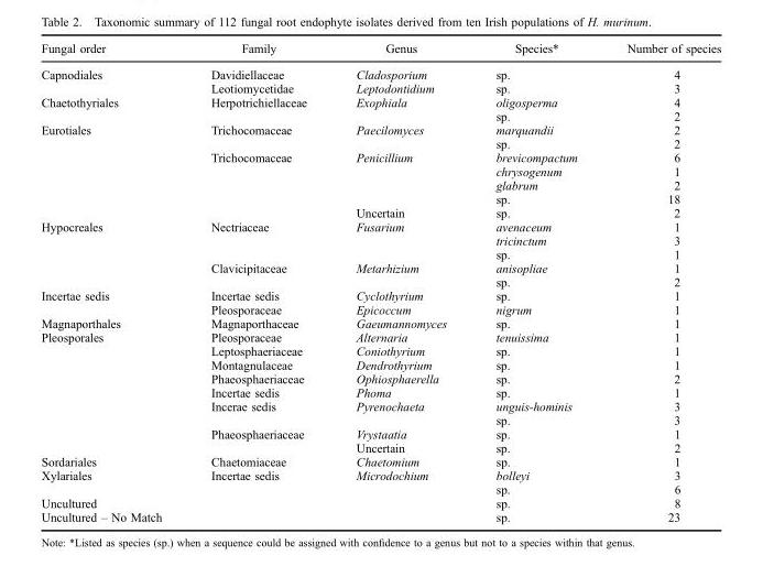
<table><thead><tr><td>Fungal order</td><td>Family</td><td>Genus</td><td>Species*</td><td>Number of species</td></tr></thead><tbody><tr><td rowspan="2">Capnodiales</td><td>Davidiellaceae</td><td>Cladosporium</td><td>sp.</td><td>4</td></tr><tr><td>Leotiomycetidae</td><td>Leptodontidium</td><td>sp.</td><td>3</td></tr><tr><td rowspan="2">Chaetothyriales</td><td>Herpotrichiellaceae</td><td>Exophiala</td><td>oligosperma</td><td>4</td></tr><tr><td></td><td></td><td>sp.</td><td>2</td></tr><tr><td rowspan="7">Eurotiales</td><td>Trichocomaceae</td><td>Paecilomyces</td><td>marquandii</td><td>2</td></tr><tr><td></td><td></td><td>sp.</td><td>2</td></tr><tr><td>Trichocomaceae</td><td>Penicillium</td><td>brevicompactum</td><td>6</td></tr><tr><td></td><td></td><td>chrysogenum</td><td>1</td></tr><tr><td></td><td></td><td>glabrum</td><td>2</td></tr><tr><td></td><td></td><td>sp.</td><td>18</td></tr><tr><td></td><td>Uncertain</td><td>sp.</td><td>2</td></tr><tr><td rowspan="5">Hypocreales</td><td>Nectriaceae</td><td>Fusarium</td><td>avenaceum</td><td>1</td></tr><tr><td></td><td></td><td>tricinctum</td><td>3</td></tr><tr><td></td><td></td><td>sp.</td><td>1</td></tr><tr><td>Clavicipitaceae</td><td>Metarhizium</td><td>anisopliae</td><td>1</td></tr><tr><td></td><td></td><td>sp.</td><td>2</td></tr><tr><td rowspan="2">Incertae sedis</td><td>Incertae sedis</td><td>Cyclothyrium</td><td>sp.</td><td>1</td></tr><tr><td>Pleosporaceae</td><td>Epicoccum</td><td>nigrum</td><td>1</td></tr><tr><td>Magnaporthales</td><td>Magnaporthaceae</td><td>Gaeumannomyces</td><td>sp.</td><td>1</td></tr><tr><td rowspan="9">Pleosporales</td><td>Pleosporaceae</td><td>Alternaria</td><td>tenuissima</td><td>1</td></tr><tr><td>Leptosphaeriaceae</td><td>Coniothyrium</td><td>sp.</td><td>1</td></tr><tr><td>Montagnulaceae</td><td>Dendrothyrium</td><td>sp.</td><td>1</td></tr><tr><td>Phaeosphaeriaceae</td><td>Ophiosphaerella</td><td>sp.</td><td>2</td></tr><tr><td>Incertae sedis</td><td>Phoma</td><td>sp.</td><td>1</td></tr><tr><td>Incerae sedis</td><td>Pyrenochaeta</td><td>unguis-hominis</td><td>3</td></tr><tr><td></td><td></td><td>sp.</td><td>3</td></tr><tr><td>Phaeosphaeriaceae</td><td>Vrystaatia</td><td>sp.</td><td>1</td></tr><tr><td></td><td>Uncertain</td><td>sp.</td><td>2</td></tr><tr><td>Sordariales</td><td>Chaetomiaceae</td><td>Chaetomium</td><td>sp.</td><td>1</td></tr><tr><td rowspan="2">Xylariales</td><td>Incertae sedis</td><td>Microdochium</td><td>bolleyi</td><td>3</td></tr><tr><td></td><td></td><td>sp.</td><td>6</td></tr><tr><td>Uncultured</td><td></td><td></td><td>sp.</td><td>8</td></tr><tr><td>Uncultured – No Match</td><td></td><td></td><td>sp.</td><td>23</td></tr></tbody></table>